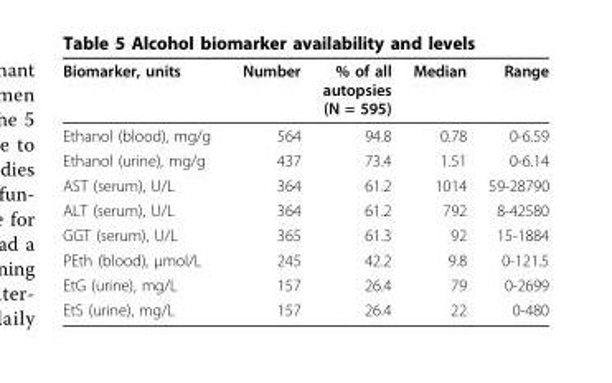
<table><thead><tr><td>Biomarker, units</td><td>Number</td><td>% of all autopsies (N = 595)</td><td>Median</td><td>Range</td></tr></thead><tbody><tr><td>Ethanol (blood), mg/g</td><td>564</td><td>94.8</td><td>0.78</td><td>0-6.59</td></tr><tr><td>Ethanol (urine), mg/g</td><td>437</td><td>73.4</td><td>1.51</td><td>0-6.14</td></tr><tr><td>AST (serum), U/L</td><td>364</td><td>61.2</td><td>1014</td><td>59-28790</td></tr><tr><td>ALT (serum), U/L</td><td>364</td><td>61.2</td><td>792</td><td>8-42580</td></tr><tr><td>GGT (serum), U/L</td><td>365</td><td>61.3</td><td>92</td><td>15-1884</td></tr><tr><td>PEth (blood), μmol/L</td><td>245</td><td>42.2</td><td>9.8</td><td>0-121.5</td></tr><tr><td>EtG (urine), mg/L</td><td>157</td><td>26.4</td><td>79</td><td>0-2699</td></tr><tr><td>EtS (urine), mg/L</td><td>157</td><td>26.4</td><td>22</td><td>0-480</td></tr></tbody></table>